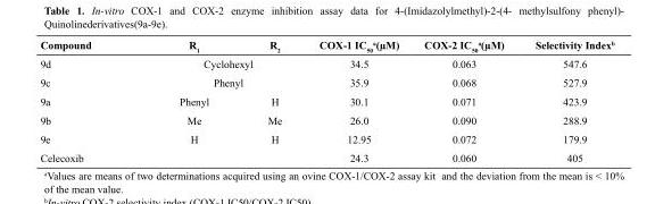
<table><thead><tr><td>Compound</td><td>R<sub>1</sub></td><td>R<sub>2</sub></td><td>COX-1 IC<sub>50</sub> a(µM)</td><td>COX-2 IC<sub>50</sub> a(µM)</td><td>Selectivity Indexb</td></tr></thead><tbody><tr><td>9d</td><td colspan="2">Cyclohexyl</td><td>34.5</td><td>0.063</td><td>547.6</td></tr><tr><td>9c</td><td colspan="2">Phenyl</td><td>35.9</td><td>0.068</td><td>527.9</td></tr><tr><td>9a</td><td>Phenyl</td><td>H</td><td>30.1</td><td>0.071</td><td>423.9</td></tr><tr><td>9b</td><td>Me</td><td>Me</td><td>26.0</td><td>0.090</td><td>288.9</td></tr><tr><td>9e</td><td>H</td><td>H</td><td>12.95</td><td>0.072</td><td>179.9</td></tr><tr><td>Celecoxib</td><td></td><td></td><td>24.3</td><td>0.060</td><td>405</td></tr></tbody></table>